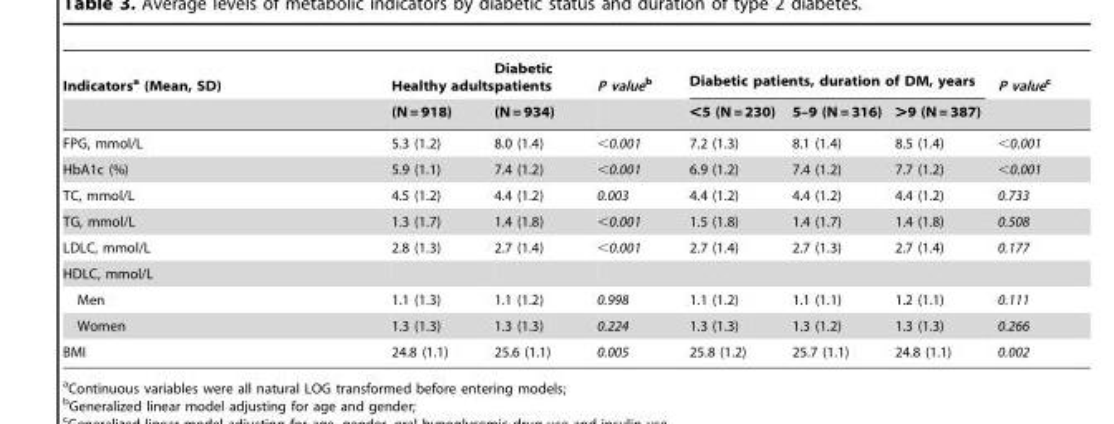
<table><thead><tr><td rowspan="2">Indicators<sup>a</sup> (Mean, SD)</td><td rowspan="2">Healthy adults (N = 918)</td><td rowspan="2">Diabetic patients (N = 934)</td><td rowspan="2">P valueb</td><td colspan="3">Diabetic patients, duration of DM, years</td><td rowspan="2">P valuec</td></tr><tr><td>&lt;5 (N = 230)</td><td>5–9 (N = 316)</td><td>&gt;9 (N = 387)</td></tr></thead><tbody><tr><td>FPG, mmol/L</td><td>5.3 (1.2)</td><td>8.0 (1.4)</td><td>&lt;0.001</td><td>7.2 (1.3)</td><td>8.1 (1.4)</td><td>8.5 (1.4)</td><td>&lt;0.001</td></tr><tr><td>HbA1c (%)</td><td>5.9 (1.1)</td><td>7.4 (1.2)</td><td>&lt;0.001</td><td>6.9 (1.2)</td><td>7.4 (1.2)</td><td>7.7 (1.2)</td><td>&lt;0.001</td></tr><tr><td>TC, mmol/L</td><td>4.5 (1.2)</td><td>4.4 (1.2)</td><td>0.003</td><td>4.4 (1.2)</td><td>4.4 (1.2)</td><td>4.4 (1.2)</td><td>0.733</td></tr><tr><td>TG, mmol/L</td><td>1.3 (1.7)</td><td>1.4 (1.8)</td><td>&lt;0.001</td><td>1.5 (1.8)</td><td>1.4 (1.7)</td><td>1.4 (1.8)</td><td>0.508</td></tr><tr><td>LDLC, mmol/L</td><td>2.8 (1.3)</td><td>2.7 (1.4)</td><td>&lt;0.001</td><td>2.7 (1.4)</td><td>2.7 (1.3)</td><td>2.7 (1.4)</td><td>0.177</td></tr><tr><td colspan="8">HDLC, mmol/L</td></tr><tr><td>Men</td><td>1.1 (1.3)</td><td>1.1 (1.2)</td><td>0.998</td><td>1.1 (1.2)</td><td>1.1 (1.1)</td><td>1.2 (1.1)</td><td>0.111</td></tr><tr><td>Women</td><td>1.3 (1.3)</td><td>1.3 (1.3)</td><td>0.224</td><td>1.3 (1.3)</td><td>1.3 (1.2)</td><td>1.3 (1.3)</td><td>0.266</td></tr><tr><td>BMI</td><td>24.8 (1.1)</td><td>25.6 (1.1)</td><td>0.005</td><td>25.8 (1.2)</td><td>25.7 (1.1)</td><td>24.8 (1.1)</td><td>0.002</td></tr></tbody></table>